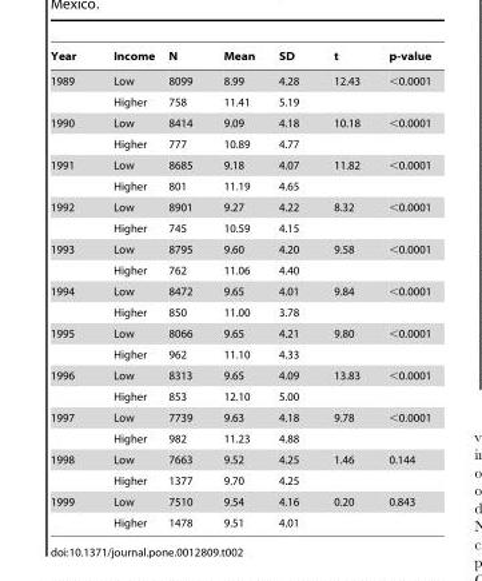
<table><thead><tr><td>Year</td><td>Income</td><td>N</td><td>Mean</td><td>SD</td><td>t</td><td>p-value</td></tr></thead><tbody><tr><td rowspan="2">1989</td><td>Low</td><td>8099</td><td>8.99</td><td>4.28</td><td>12.43</td><td>&lt;0.0001</td></tr><tr><td>Higher</td><td>758</td><td>11.41</td><td>5.19</td><td></td><td></td></tr><tr><td rowspan="2">1990</td><td>Low</td><td>8414</td><td>9.09</td><td>4.18</td><td>10.18</td><td>&lt;0.0001</td></tr><tr><td>Higher</td><td>777</td><td>10.89</td><td>4.77</td><td></td><td></td></tr><tr><td rowspan="2">1991</td><td>Low</td><td>8685</td><td>9.18</td><td>4.07</td><td>11.82</td><td>&lt;0.0001</td></tr><tr><td>Higher</td><td>801</td><td>11.19</td><td>4.65</td><td></td><td></td></tr><tr><td rowspan="2">1992</td><td>Low</td><td>8901</td><td>9.27</td><td>4.22</td><td>8.32</td><td>&lt;0.0001</td></tr><tr><td>Higher</td><td>745</td><td>10.59</td><td>4.15</td><td></td><td></td></tr><tr><td rowspan="2">1993</td><td>Low</td><td>8795</td><td>9.60</td><td>4.20</td><td>9.58</td><td>&lt;0.0001</td></tr><tr><td>Higher</td><td>762</td><td>11.06</td><td>4.40</td><td></td><td></td></tr><tr><td rowspan="2">1994</td><td>Low</td><td>8472</td><td>9.65</td><td>4.01</td><td>9.84</td><td>&lt;0.0001</td></tr><tr><td>Higher</td><td>850</td><td>11.00</td><td>3.78</td><td></td><td></td></tr><tr><td rowspan="2">1995</td><td>Low</td><td>8066</td><td>9.65</td><td>4.21</td><td>9.80</td><td>&lt;0.0001</td></tr><tr><td>Higher</td><td>962</td><td>11.10</td><td>4.33</td><td></td><td></td></tr><tr><td rowspan="2">1996</td><td>Low</td><td>8313</td><td>9.65</td><td>4.09</td><td>13.83</td><td>&lt;0.0001</td></tr><tr><td>Higher</td><td>853</td><td>12.10</td><td>5.00</td><td></td><td></td></tr><tr><td rowspan="2">1997</td><td>Low</td><td>7739</td><td>9.63</td><td>4.18</td><td>9.78</td><td>&lt;0.0001</td></tr><tr><td>Higher</td><td>982</td><td>11.23</td><td>4.88</td><td></td><td></td></tr><tr><td rowspan="2">1998</td><td>Low</td><td>7663</td><td>9.52</td><td>4.25</td><td>1.46</td><td>0.144</td></tr><tr><td>Higher</td><td>1377</td><td>9.70</td><td>4.25</td><td></td><td></td></tr><tr><td rowspan="2">1999</td><td>Low</td><td>7510</td><td>9.54</td><td>4.16</td><td>0.20</td><td>0.843</td></tr><tr><td>Higher</td><td>1478</td><td>9.51</td><td>4.01</td><td></td><td></td></tr></tbody></table>